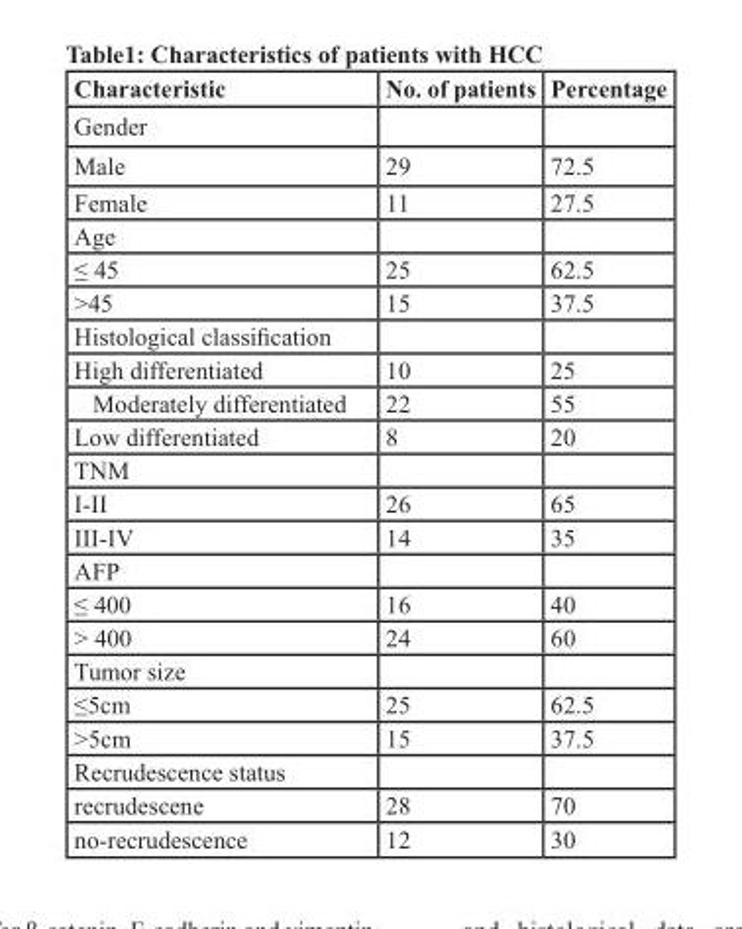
<table><thead><tr><td>Characteristic</td><td>No. of patients</td><td>Percentage</td></tr></thead><tbody><tr><td colspan="3">Gender</td></tr><tr><td>Male</td><td>29</td><td>72.5</td></tr><tr><td>Female</td><td>11</td><td>27.5</td></tr><tr><td colspan="3">Age</td></tr><tr><td>≤ 45</td><td>25</td><td>62.5</td></tr><tr><td>&gt;45</td><td>15</td><td>37.5</td></tr><tr><td colspan="3">Histological classification</td></tr><tr><td>High differentiated</td><td>10</td><td>25</td></tr><tr><td>Moderately differentiated</td><td>22</td><td>55</td></tr><tr><td>Low differentiated</td><td>8</td><td>20</td></tr><tr><td colspan="3">TNM</td></tr><tr><td>I-II</td><td>26</td><td>65</td></tr><tr><td>III-IV</td><td>14</td><td>35</td></tr><tr><td colspan="3">AFP</td></tr><tr><td>≤ 400</td><td>16</td><td>40</td></tr><tr><td>&gt; 400</td><td>24</td><td>60</td></tr><tr><td colspan="3">Tumor size</td></tr><tr><td>≤5cm</td><td>25</td><td>62.5</td></tr><tr><td>&gt;5cm</td><td>15</td><td>37.5</td></tr><tr><td colspan="3">Recrudescence status</td></tr><tr><td>recrudescene</td><td>28</td><td>70</td></tr><tr><td>no-recrudescence</td><td>12</td><td>30</td></tr></tbody></table>